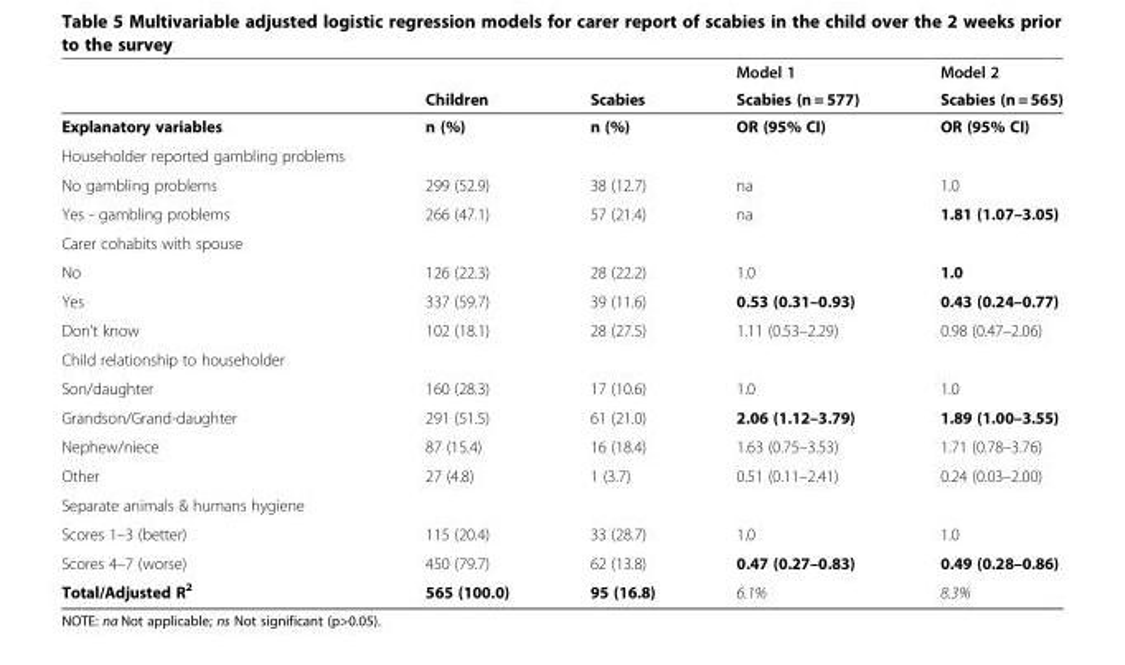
<table><thead><tr><td></td><td></td><td></td><td>Model 1</td><td>Model 2</td></tr></thead><tbody><tr><td></td><td>Children</td><td>Scabies</td><td>Scabies (n = 577)</td><td>Scabies (n = 565)</td></tr><tr><td>Explanatory variables</td><td>n (%)</td><td>n (%)</td><td>OR (95% CI)</td><td>OR (95% CI)</td></tr><tr><td colspan="5">Householder reported gambling problems</td></tr><tr><td>No gambling problems</td><td>299 (52.9)</td><td>38 (12.7)</td><td>na</td><td>1.0</td></tr><tr><td>Yes - gambling problems</td><td>266 (47.1)</td><td>57 (21.4)</td><td>na</td><td>1.81 (1.07–3.05)</td></tr><tr><td colspan="5">Carer cohabits with spouse</td></tr><tr><td>No</td><td>126 (22.3)</td><td>28 (22.2)</td><td>1.0</td><td>1.0</td></tr><tr><td>Yes</td><td>337 (59.7)</td><td>39 (11.6)</td><td>0.53 (0.31–0.93)</td><td>0.43 (0.24–0.77)</td></tr><tr><td>Don’t know</td><td>102 (18.1)</td><td>28 (27.5)</td><td>1.11 (0.53–2.29)</td><td>0.98 (0.47–2.06)</td></tr><tr><td colspan="5">Child relationship to householder</td></tr><tr><td>Son/daughter</td><td>160 (28.3)</td><td>17 (10.6)</td><td>1.0</td><td>1.0</td></tr><tr><td>Grandson/Grand-daughter</td><td>291 (51.5)</td><td>61 (21.0)</td><td>2.06 (1.12–3.79)</td><td>1.89 (1.00–3.55)</td></tr><tr><td>Nephew/niece</td><td>87 (15.4)</td><td>16 (18.4)</td><td>1.63 (0.75–3.53)</td><td>1.71 (0.78–3.76)</td></tr><tr><td>Other</td><td>27 (4.8)</td><td>1 (3.7)</td><td>0.51 (0.11–2.41)</td><td>0.24 (0.03–2.00)</td></tr><tr><td colspan="5">Separate animals &amp; humans hygiene</td></tr><tr><td>Scores 1–3 (better)</td><td>115 (20.4)</td><td>33 (28.7)</td><td>1.0</td><td>1.0</td></tr><tr><td>Scores 4–7 (worse)</td><td>450 (79.7)</td><td>62 (13.8)</td><td>0.47 (0.27–0.83)</td><td>0.49 (0.28–0.86)</td></tr><tr><td>Total/Adjusted R<sup>2</sup></td><td>565 (100.0)</td><td>95 (16.8)</td><td>6.1%</td><td>8.3%</td></tr></tbody></table>